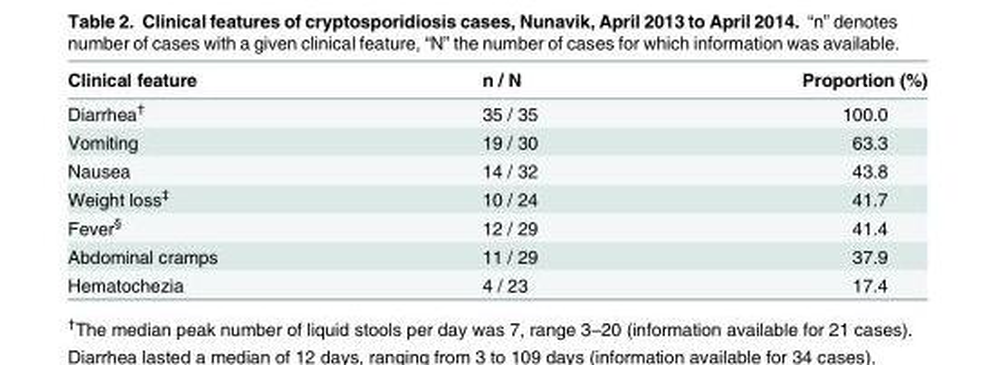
<table><thead><tr><td>Clinical feature</td><td>n / N</td><td>Proportion (%)</td></tr></thead><tbody><tr><td>Diarrhea<sup>†</sup></td><td>35 / 35</td><td>100.0</td></tr><tr><td>Vomiting</td><td>19 / 30</td><td>63.3</td></tr><tr><td>Nausea</td><td>14 / 32</td><td>43.8</td></tr><tr><td>Weight loss<sup>‡</sup></td><td>10 / 24</td><td>41.7</td></tr><tr><td>Fever<sup>§</sup></td><td>12 / 29</td><td>41.4</td></tr><tr><td>Abdominal cramps</td><td>11 / 29</td><td>37.9</td></tr><tr><td>Hematochezia</td><td>4 / 23</td><td>17.4</td></tr></tbody></table>